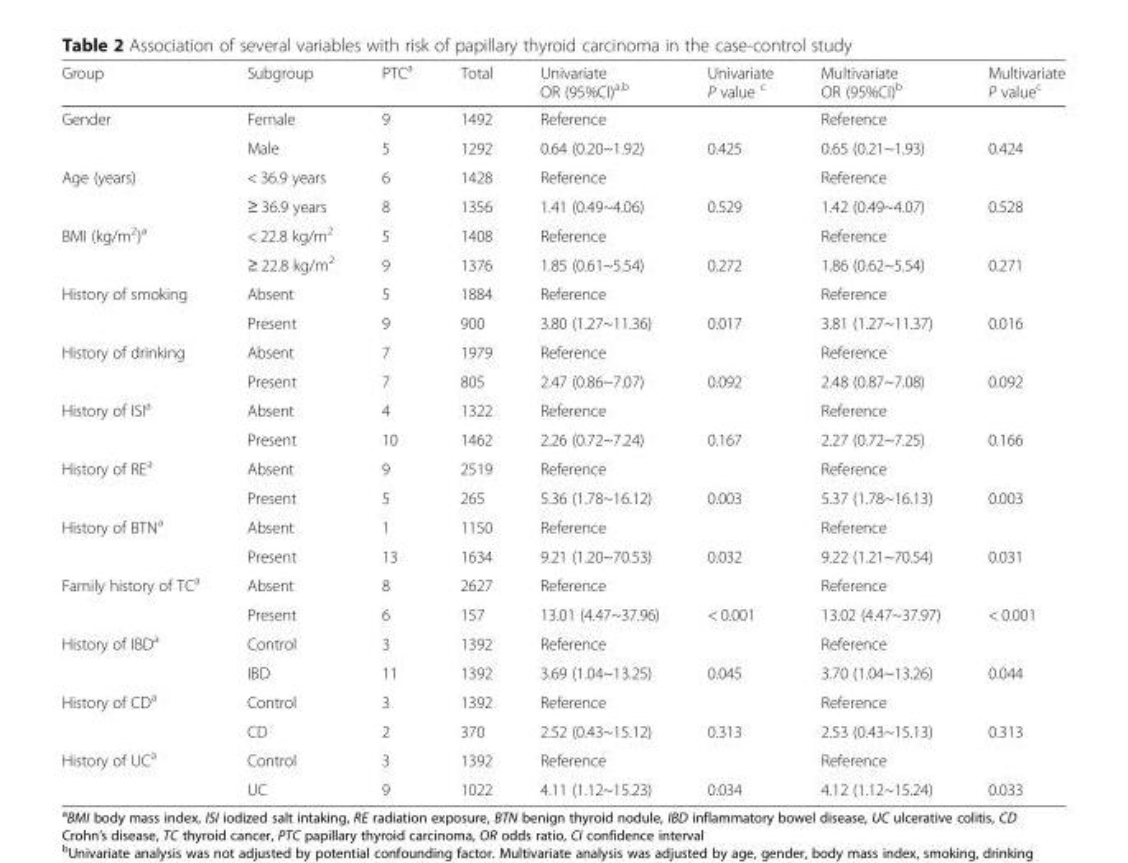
<table><thead><tr><td>Group</td><td>Subgroup</td><td>PTC<sup>a</sup></td><td>Total</td><td>Univariate OR (95%CI)<sup>a,b</sup></td><td>Univariate P value <sup>c</sup></td><td>Multivariate OR (95%CI)<sup>b</sup></td><td>Multivariate P value<sup>c</sup></td></tr></thead><tbody><tr><td rowspan="2">Gender</td><td>Female</td><td>9</td><td>1492</td><td>Reference</td><td></td><td>Reference</td><td></td></tr><tr><td>Male</td><td>5</td><td>1292</td><td>0.64 (0.20~1.92)</td><td>0.425</td><td>0.65 (0.21~1.93)</td><td>0.424</td></tr><tr><td rowspan="2">Age (years)</td><td>&lt; 36.9 years</td><td>6</td><td>1428</td><td>Reference</td><td></td><td>Reference</td><td></td></tr><tr><td>≥ 36.9 years</td><td>8</td><td>1356</td><td>1.41 (0.49~4.06)</td><td>0.529</td><td>1.42 (0.49~4.07)</td><td>0.528</td></tr><tr><td rowspan="2">BMI (kg/m<sup>2</sup>)<sup>a</sup></td><td>&lt; 22.8 kg/m<sup>2</sup></td><td>5</td><td>1408</td><td>Reference</td><td></td><td>Reference</td><td></td></tr><tr><td>≥ 22.8 kg/m<sup>2</sup></td><td>9</td><td>1376</td><td>1.85 (0.61~5.54)</td><td>0.272</td><td>1.86 (0.62~5.54)</td><td>0.271</td></tr><tr><td rowspan="2">History of smoking</td><td>Absent</td><td>5</td><td>1884</td><td>Reference</td><td></td><td>Reference</td><td></td></tr><tr><td>Present</td><td>9</td><td>900</td><td>3.80 (1.27~11.36)</td><td>0.017</td><td>3.81 (1.27~11.37)</td><td>0.016</td></tr><tr><td rowspan="2">History of drinking</td><td>Absent</td><td>7</td><td>1979</td><td>Reference</td><td></td><td>Reference</td><td></td></tr><tr><td>Present</td><td>7</td><td>805</td><td>2.47 (0.86~7.07)</td><td>0.092</td><td>2.48 (0.87~7.08)</td><td>0.092</td></tr><tr><td rowspan="2">History of ISI<sup>a</sup></td><td>Absent</td><td>4</td><td>1322</td><td>Reference</td><td></td><td>Reference</td><td></td></tr><tr><td>Present</td><td>10</td><td>1462</td><td>2.26 (0.72~7.24)</td><td>0.167</td><td>2.27 (0.72~7.25)</td><td>0.166</td></tr><tr><td rowspan="2">History of RE<sup>a</sup></td><td>Absent</td><td>9</td><td>2519</td><td>Reference</td><td></td><td>Reference</td><td></td></tr><tr><td>Present</td><td>5</td><td>265</td><td>5.36 (1.78~16.12)</td><td>0.003</td><td>5.37 (1.78~16.13)</td><td>0.003</td></tr><tr><td rowspan="2">History of BTN<sup>a</sup></td><td>Absent</td><td>1</td><td>1150</td><td>Reference</td><td></td><td>Reference</td><td></td></tr><tr><td>Present</td><td>13</td><td>1634</td><td>9.21 (1.20~70.53)</td><td>0.032</td><td>9.22 (1.21~70.54)</td><td>0.031</td></tr><tr><td rowspan="2">Family history of TC<sup>a</sup></td><td>Absent</td><td>8</td><td>2627</td><td>Reference</td><td></td><td>Reference</td><td></td></tr><tr><td>Present</td><td>6</td><td>157</td><td>13.01 (4.47~37.96)</td><td>&lt; 0.001</td><td>13.02 (4.47~37.97)</td><td>&lt; 0.001</td></tr><tr><td rowspan="2">History of IBD<sup>a</sup></td><td>Control</td><td>3</td><td>1392</td><td>Reference</td><td></td><td>Reference</td><td></td></tr><tr><td>IBD</td><td>11</td><td>1392</td><td>3.69 (1.04~13.25)</td><td>0.045</td><td>3.70 (1.04~13.26)</td><td>0.044</td></tr><tr><td rowspan="2">History of CD<sup>a</sup></td><td>Control</td><td>3</td><td>1392</td><td>Reference</td><td></td><td>Reference</td><td></td></tr><tr><td>CD</td><td>2</td><td>370</td><td>2.52 (0.43~15.12)</td><td>0.313</td><td>2.53 (0.43~15.13)</td><td>0.313</td></tr><tr><td rowspan="2">History of UC<sup>a</sup></td><td>Control</td><td>3</td><td>1392</td><td>Reference</td><td></td><td>Reference</td><td></td></tr><tr><td>UC</td><td>9</td><td>1022</td><td>4.11 (1.12~15.23)</td><td>0.034</td><td>4.12 (1.12~15.24)</td><td>0.033</td></tr></tbody></table>